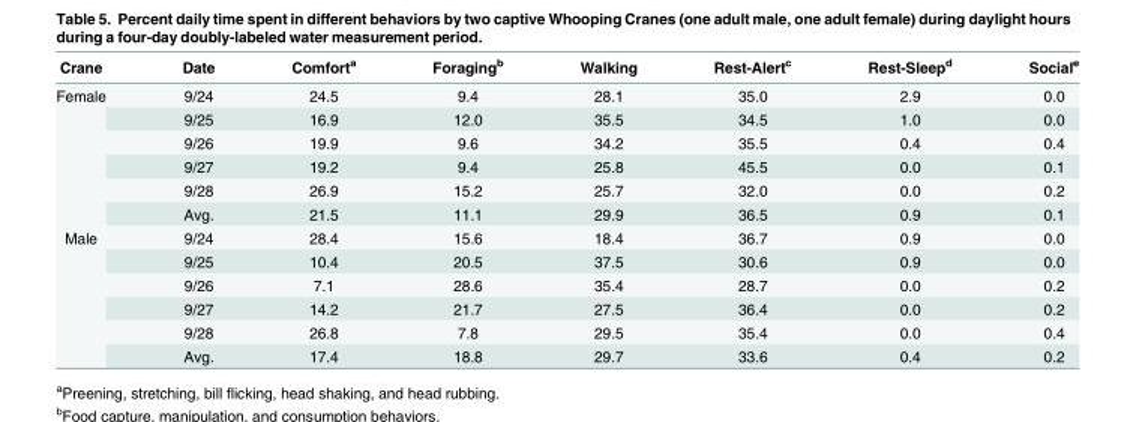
<table><thead><tr><td>Crane</td><td>Date</td><td>Comfort<sup>a</sup></td><td>Foraging<sup>b</sup></td><td>Walking</td><td>Rest-Alert<sup>c</sup></td><td>Rest-Sleep<sup>d</sup></td><td>Social<sup>e</sup></td></tr></thead><tbody><tr><td rowspan="6">Female</td><td>9/24</td><td>24.5</td><td>9.4</td><td>28.1</td><td>35.0</td><td>2.9</td><td>0.0</td></tr><tr><td>9/25</td><td>16.9</td><td>12.0</td><td>35.5</td><td>34.5</td><td>1.0</td><td>0.0</td></tr><tr><td>9/26</td><td>19.9</td><td>9.6</td><td>34.2</td><td>35.5</td><td>0.4</td><td>0.4</td></tr><tr><td>9/27</td><td>19.2</td><td>9.4</td><td>25.8</td><td>45.5</td><td>0.0</td><td>0.1</td></tr><tr><td>9/28</td><td>26.9</td><td>15.2</td><td>25.7</td><td>32.0</td><td>0.0</td><td>0.2</td></tr><tr><td>Avg.</td><td>21.5</td><td>11.1</td><td>29.9</td><td>36.5</td><td>0.9</td><td>0.1</td></tr><tr><td rowspan="6">Male</td><td>9/24</td><td>28.4</td><td>15.6</td><td>18.4</td><td>36.7</td><td>0.9</td><td>0.0</td></tr><tr><td>9/25</td><td>10.4</td><td>20.5</td><td>37.5</td><td>30.6</td><td>0.9</td><td>0.0</td></tr><tr><td>9/26</td><td>7.1</td><td>28.6</td><td>35.4</td><td>28.7</td><td>0.0</td><td>0.2</td></tr><tr><td>9/27</td><td>14.2</td><td>21.7</td><td>27.5</td><td>36.4</td><td>0.0</td><td>0.2</td></tr><tr><td>9/28</td><td>26.8</td><td>7.8</td><td>29.5</td><td>35.4</td><td>0.0</td><td>0.4</td></tr><tr><td>Avg.</td><td>17.4</td><td>18.8</td><td>29.7</td><td>33.6</td><td>0.4</td><td>0.2</td></tr></tbody></table>